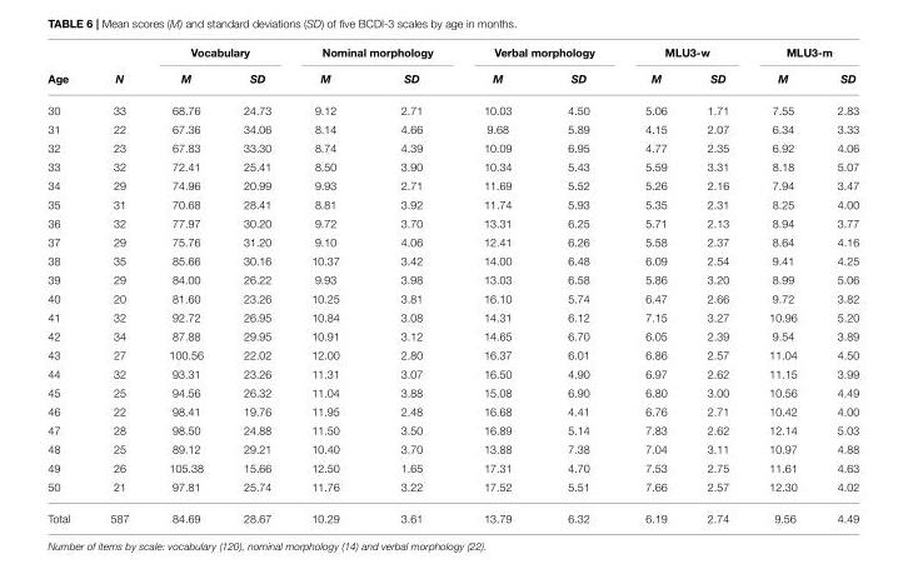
<table><thead><tr><td rowspan="2">Age</td><td rowspan="2">N</td><td colspan="2">Vocabulary</td><td colspan="2">Nominal morphology</td><td colspan="2">Verbal morphology</td><td colspan="2">MLU3-w</td><td colspan="2">MLU3-m</td></tr><tr><td>M</td><td>SD</td><td>M</td><td>SD</td><td>M</td><td>SD</td><td>M</td><td>SD</td><td>M</td><td>SD</td></tr></thead><tbody><tr><td>30</td><td>33</td><td>68.76</td><td>24.73</td><td>9.12</td><td>2.71</td><td>10.03</td><td>4.50</td><td>5.06</td><td>1.71</td><td>7.55</td><td>2.83</td></tr><tr><td>31</td><td>22</td><td>67.36</td><td>34.06</td><td>8.14</td><td>4.66</td><td>9.68</td><td>5.89</td><td>4.15</td><td>2.07</td><td>6.34</td><td>3.33</td></tr><tr><td>32</td><td>23</td><td>67.83</td><td>33.30</td><td>8.74</td><td>4.39</td><td>10.09</td><td>6.95</td><td>4.77</td><td>2.35</td><td>6.92</td><td>4.06</td></tr><tr><td>33</td><td>32</td><td>72.41</td><td>25.41</td><td>8.50</td><td>3.90</td><td>10.34</td><td>5.43</td><td>5.59</td><td>3.31</td><td>8.18</td><td>5.07</td></tr><tr><td>34</td><td>29</td><td>74.96</td><td>20.99</td><td>9.93</td><td>2.71</td><td>11.69</td><td>5.52</td><td>5.26</td><td>2.16</td><td>7.94</td><td>3.47</td></tr><tr><td>35</td><td>31</td><td>70.68</td><td>28.41</td><td>8.81</td><td>3.92</td><td>11.74</td><td>5.93</td><td>5.35</td><td>2.31</td><td>8.25</td><td>4.00</td></tr><tr><td>36</td><td>32</td><td>77.97</td><td>30.20</td><td>9.72</td><td>3.70</td><td>13.31</td><td>6.25</td><td>5.71</td><td>2.13</td><td>8.94</td><td>3.77</td></tr><tr><td>37</td><td>29</td><td>75.76</td><td>31.20</td><td>9.10</td><td>4.06</td><td>12.41</td><td>6.26</td><td>5.58</td><td>2.37</td><td>8.64</td><td>4.16</td></tr><tr><td>38</td><td>35</td><td>85.66</td><td>30.16</td><td>10.37</td><td>3.42</td><td>14.00</td><td>6.48</td><td>6.09</td><td>2.54</td><td>9.41</td><td>4.25</td></tr><tr><td>39</td><td>29</td><td>84.00</td><td>26.22</td><td>9.93</td><td>3.98</td><td>13.03</td><td>6.58</td><td>5.86</td><td>3.20</td><td>8.99</td><td>5.06</td></tr><tr><td>40</td><td>20</td><td>81.60</td><td>23.26</td><td>10.25</td><td>3.81</td><td>16.10</td><td>5.74</td><td>6.47</td><td>2.66</td><td>9.72</td><td>3.82</td></tr><tr><td>41</td><td>32</td><td>92.72</td><td>26.95</td><td>10.84</td><td>3.08</td><td>14.31</td><td>6.12</td><td>7.15</td><td>3.27</td><td>10.96</td><td>5.20</td></tr><tr><td>42</td><td>34</td><td>87.88</td><td>29.95</td><td>10.91</td><td>3.12</td><td>14.65</td><td>6.70</td><td>6.05</td><td>2.39</td><td>9.54</td><td>3.89</td></tr><tr><td>43</td><td>27</td><td>100.56</td><td>22.02</td><td>12.00</td><td>2.80</td><td>16.37</td><td>6.01</td><td>6.86</td><td>2.57</td><td>11.04</td><td>4.50</td></tr><tr><td>44</td><td>32</td><td>93.31</td><td>23.26</td><td>11.31</td><td>3.07</td><td>16.50</td><td>4.90</td><td>6.97</td><td>2.62</td><td>11.15</td><td>3.99</td></tr><tr><td>45</td><td>25</td><td>94.56</td><td>26.32</td><td>11.04</td><td>3.88</td><td>15.08</td><td>6.90</td><td>6.80</td><td>3.00</td><td>10.56</td><td>4.49</td></tr><tr><td>46</td><td>22</td><td>98.41</td><td>19.76</td><td>11.95</td><td>2.48</td><td>16.68</td><td>4.41</td><td>6.76</td><td>2.71</td><td>10.42</td><td>4.00</td></tr><tr><td>47</td><td>28</td><td>98.50</td><td>24.88</td><td>11.50</td><td>3.50</td><td>16.89</td><td>5.14</td><td>7.83</td><td>2.62</td><td>12.14</td><td>5.03</td></tr><tr><td>48</td><td>25</td><td>89.12</td><td>29.21</td><td>10.40</td><td>3.70</td><td>13.88</td><td>7.38</td><td>7.04</td><td>3.11</td><td>10.97</td><td>4.88</td></tr><tr><td>49</td><td>26</td><td>105.38</td><td>15.66</td><td>12.50</td><td>1.65</td><td>17.31</td><td>4.70</td><td>7.53</td><td>2.75</td><td>11.61</td><td>4.63</td></tr><tr><td>50</td><td>21</td><td>97.81</td><td>25.74</td><td>11.76</td><td>3.22</td><td>17.52</td><td>5.51</td><td>7.66</td><td>2.57</td><td>12.30</td><td>4.02</td></tr><tr><td>Total</td><td>587</td><td>84.69</td><td>28.67</td><td>10.29</td><td>3.61</td><td>13.79</td><td>6.32</td><td>6.19</td><td>2.74</td><td>9.56</td><td>4.49</td></tr></tbody></table>